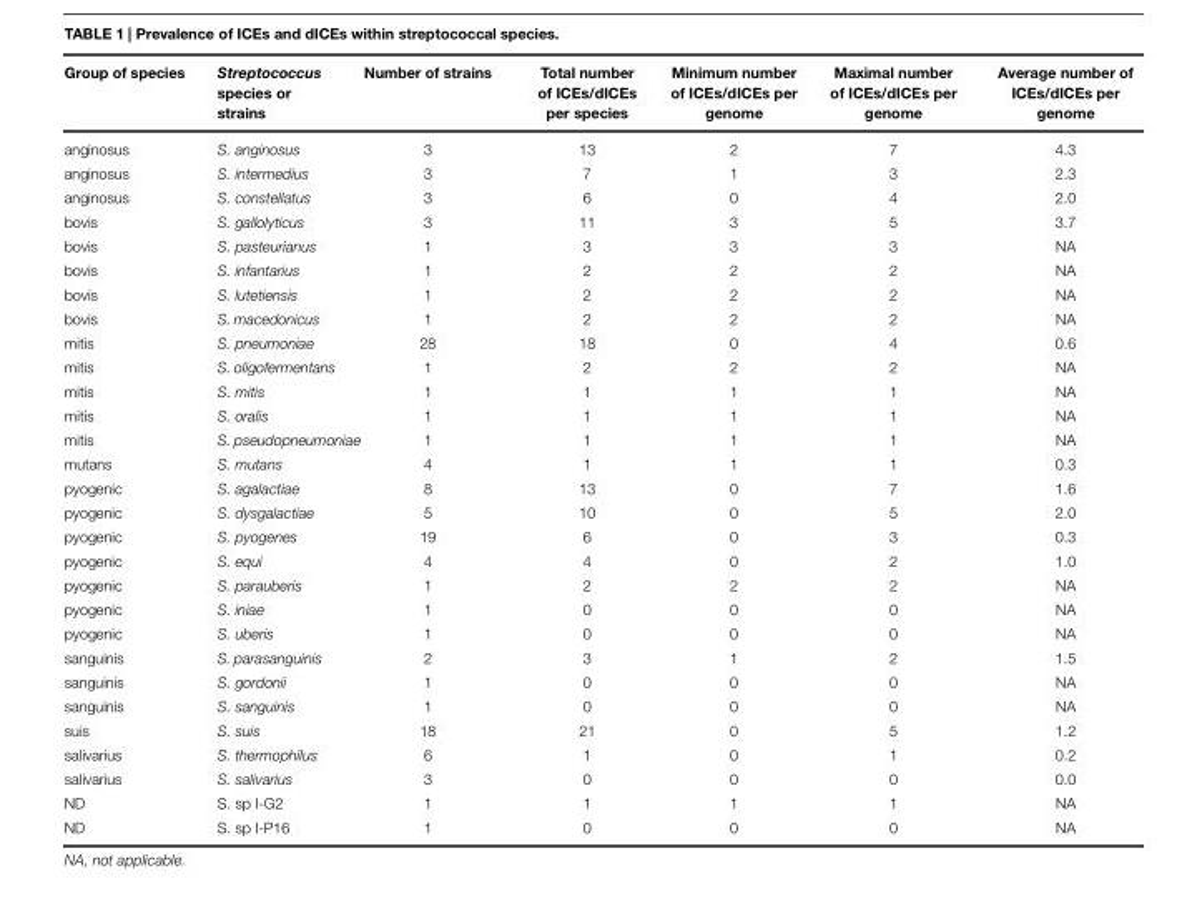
<table><thead><tr><td>Group of species</td><td>Streptococcus species or strains</td><td>Number of strains</td><td>Total number of ICEs/dICEs per species</td><td>Minimum number of ICEs/dICEs per genome</td><td>Maximal number of ICEs/dICEs per genome</td><td>Average number of ICEs/dICEs per genome</td></tr></thead><tbody><tr><td>anginosus</td><td>S. anginosus</td><td>3</td><td>13</td><td>2</td><td>7</td><td>4.3</td></tr><tr><td>anginosus</td><td>S. intermedius</td><td>3</td><td>7</td><td>1</td><td>3</td><td>2.3</td></tr><tr><td>anginosus</td><td>S. constellatus</td><td>3</td><td>6</td><td>0</td><td>4</td><td>2.0</td></tr><tr><td>bovis</td><td>S. gallolyticus</td><td>3</td><td>11</td><td>3</td><td>5</td><td>3.7</td></tr><tr><td>bovis</td><td>S. pasteurianus</td><td>1</td><td>3</td><td>3</td><td>3</td><td>NA</td></tr><tr><td>bovis</td><td>S. infantarius</td><td>1</td><td>2</td><td>2</td><td>2</td><td>NA</td></tr><tr><td>bovis</td><td>S. lutetiensis</td><td>1</td><td>2</td><td>2</td><td>2</td><td>NA</td></tr><tr><td>bovis</td><td>S. macedonicus</td><td>1</td><td>2</td><td>2</td><td>2</td><td>NA</td></tr><tr><td>mitis</td><td>S. pneumoniae</td><td>28</td><td>18</td><td>0</td><td>4</td><td>0.6</td></tr><tr><td>mitis</td><td>S. oligofermentans</td><td>1</td><td>2</td><td>2</td><td>2</td><td>NA</td></tr><tr><td>mitis</td><td>S. mitis</td><td>1</td><td>1</td><td>1</td><td>1</td><td>NA</td></tr><tr><td>mitis</td><td>S. oralis</td><td>1</td><td>1</td><td>1</td><td>1</td><td>NA</td></tr><tr><td>mitis</td><td>S. pseudopneumoniae</td><td>1</td><td>1</td><td>1</td><td>1</td><td>NA</td></tr><tr><td>mutans</td><td>S. mutans</td><td>4</td><td>1</td><td>1</td><td>1</td><td>0.3</td></tr><tr><td>pyogenic</td><td>S. agalactiae</td><td>8</td><td>13</td><td>0</td><td>7</td><td>1.6</td></tr><tr><td>pyogenic</td><td>S. dysgalactiae</td><td>5</td><td>10</td><td>0</td><td>5</td><td>2.0</td></tr><tr><td>pyogenic</td><td>S. pyogenes</td><td>19</td><td>6</td><td>0</td><td>3</td><td>0.3</td></tr><tr><td>pyogenic</td><td>S. equi</td><td>4</td><td>4</td><td>0</td><td>2</td><td>1.0</td></tr><tr><td>pyogenic</td><td>S. parauberis</td><td>1</td><td>2</td><td>2</td><td>2</td><td>NA</td></tr><tr><td>pyogenic</td><td>S. iniae</td><td>1</td><td>0</td><td>0</td><td>0</td><td>NA</td></tr><tr><td>pyogenic</td><td>S. uberis</td><td>1</td><td>0</td><td>0</td><td>0</td><td>NA</td></tr><tr><td>sanguinis</td><td>S. parasanguinis</td><td>2</td><td>3</td><td>1</td><td>2</td><td>1.5</td></tr><tr><td>sanguinis</td><td>S. gordonii</td><td>1</td><td>0</td><td>0</td><td>0</td><td>NA</td></tr><tr><td>sanguinis</td><td>S. sanguinis</td><td>1</td><td>0</td><td>0</td><td>0</td><td>NA</td></tr><tr><td>suis</td><td>S. suis</td><td>18</td><td>21</td><td>0</td><td>5</td><td>1.2</td></tr><tr><td>salivarius</td><td>S. thermophilus</td><td>6</td><td>1</td><td>0</td><td>1</td><td>0.2</td></tr><tr><td>salivarius</td><td>S. salivarius</td><td>3</td><td>0</td><td>0</td><td>0</td><td>0.0</td></tr><tr><td>ND</td><td>S. sp I-G2</td><td>1</td><td>1</td><td>1</td><td>1</td><td>NA</td></tr><tr><td>ND</td><td>S. sp I-P16</td><td>1</td><td>0</td><td>0</td><td>0</td><td>NA</td></tr></tbody></table>